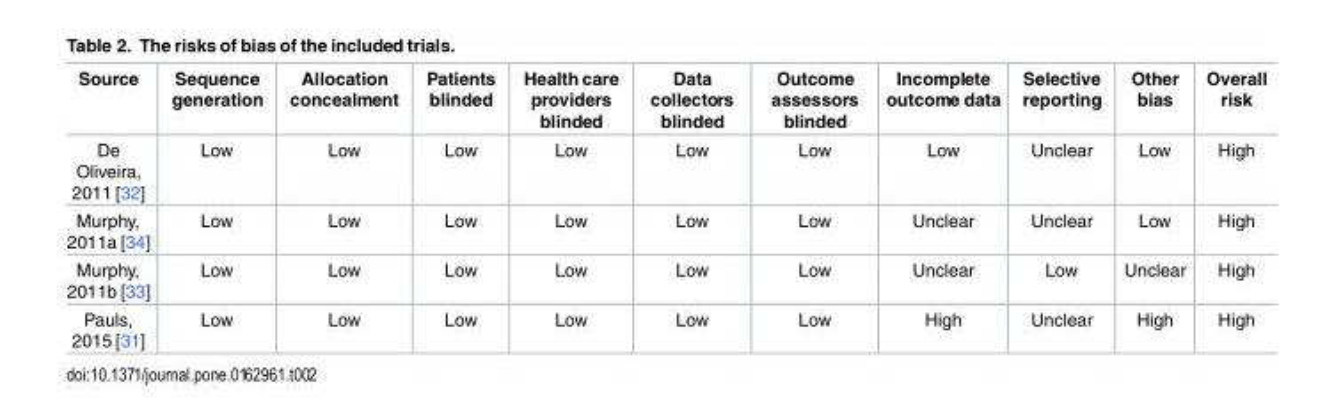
<table><thead><tr><td>Source</td><td>Sequence generation</td><td>Allocation concealment</td><td>Patients blinded</td><td>Health care providers blinded</td><td>Data collectors blinded</td><td>Outcome assessors blinded</td><td>Incomplete outcome data</td><td>Selective reporting</td><td>Other bias</td><td>Overall risk</td></tr></thead><tbody><tr><td>De Oliveira, 2011 [32]</td><td>Low</td><td>Low</td><td>Low</td><td>Low</td><td>Low</td><td>Low</td><td>Low</td><td>Unclear</td><td>Low</td><td>High</td></tr><tr><td>Murphy, 2011a [34]</td><td>Low</td><td>Low</td><td>Low</td><td>Low</td><td>Low</td><td>Low</td><td>Unclear</td><td>Unclear</td><td>Low</td><td>High</td></tr><tr><td>Murphy, 2011b [33]</td><td>Low</td><td>Low</td><td>Low</td><td>Low</td><td>Low</td><td>Low</td><td>Unclear</td><td>Low</td><td>Unclear</td><td>High</td></tr><tr><td>Pauls, 2015 [31]</td><td>Low</td><td>Low</td><td>Low</td><td>Low</td><td>Low</td><td>Low</td><td>High</td><td>Unclear</td><td>High</td><td>High</td></tr></tbody></table>